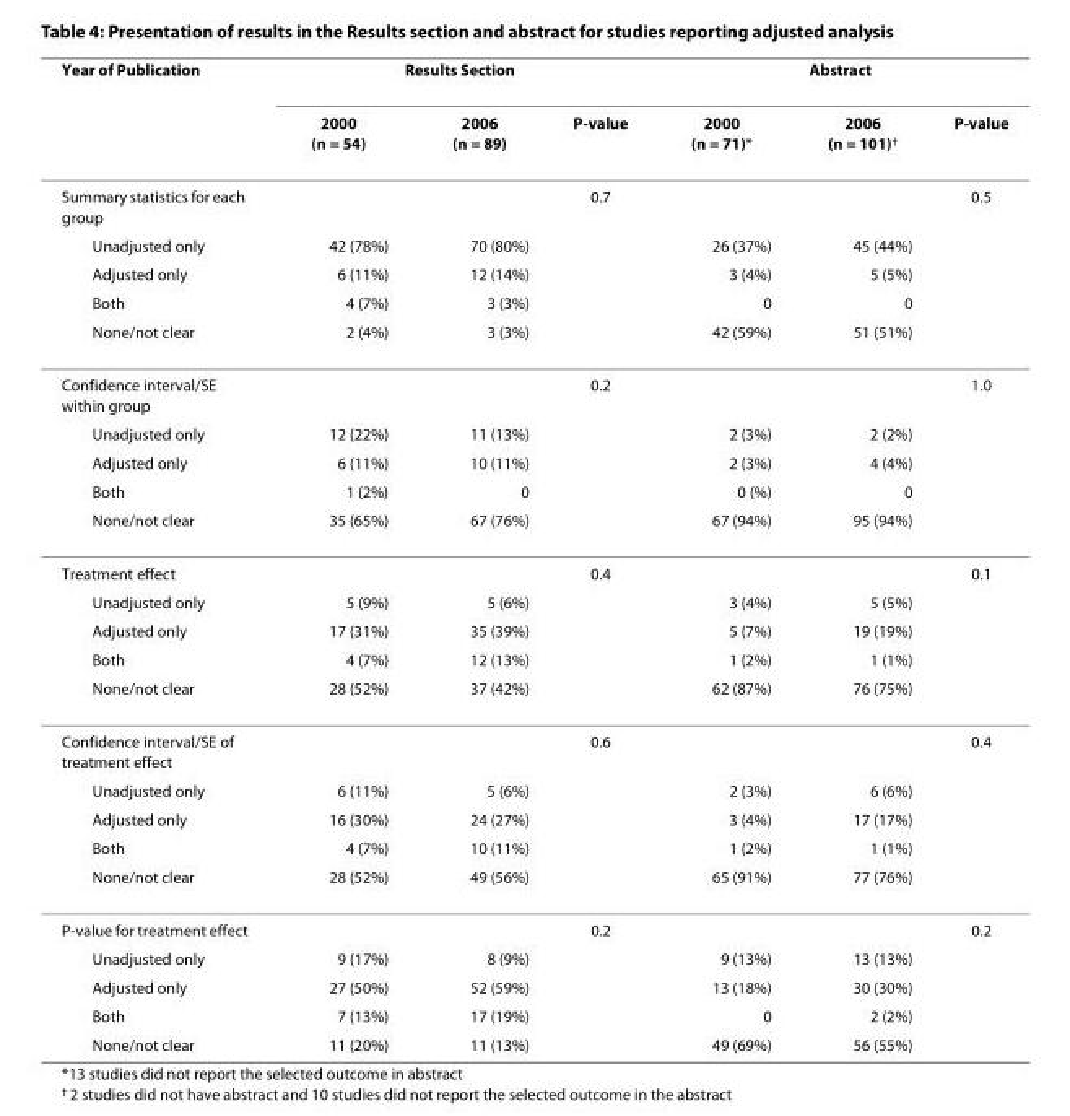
<table><thead><tr><td rowspan="2">Year of Publication</td><td colspan="3">Results Section</td><td colspan="3">Abstract</td></tr><tr><td>2000 (n = 54)</td><td>2006 (n = 89)</td><td>P-value</td><td>2000 (n = 71)*</td><td>2006 (n = 101)<sup>†</sup></td><td>P-value</td></tr></thead><tbody><tr><td>Summary statistics for each group</td><td></td><td></td><td>0.7</td><td></td><td></td><td>0.5</td></tr><tr><td>Unadjusted only</td><td>42 (78%)</td><td>70 (80%)</td><td></td><td>26 (37%)</td><td>45 (44%)</td><td></td></tr><tr><td>Adjusted only</td><td>6 (11%)</td><td>12 (14%)</td><td></td><td>3 (4%)</td><td>5 (5%)</td><td></td></tr><tr><td>Both</td><td>4 (7%)</td><td>3 (3%)</td><td></td><td>0</td><td>0</td><td></td></tr><tr><td>None/not clear</td><td>2 (4%)</td><td>3 (3%)</td><td></td><td>42 (59%)</td><td>51 (51%)</td><td></td></tr><tr><td>Confidence interval/SE within group</td><td></td><td></td><td>0.2</td><td></td><td></td><td>1.0</td></tr><tr><td>Unadjusted only</td><td>12 (22%)</td><td>11 (13%)</td><td></td><td>2 (3%)</td><td>2 (2%)</td><td></td></tr><tr><td>Adjusted only</td><td>6 (11%)</td><td>10 (11%)</td><td></td><td>2 (3%)</td><td>4 (4%)</td><td></td></tr><tr><td>Both</td><td>1 (2%)</td><td>0</td><td></td><td>0 (%)</td><td>0</td><td></td></tr><tr><td>None/not clear</td><td>35 (65%)</td><td>67 (76%)</td><td></td><td>67 (94%)</td><td>95 (94%)</td><td></td></tr><tr><td>Treatment effect</td><td></td><td></td><td>0.4</td><td></td><td></td><td>0.1</td></tr><tr><td>Unadjusted only</td><td>5 (9%)</td><td>5 (6%)</td><td></td><td>3 (4%)</td><td>5 (5%)</td><td></td></tr><tr><td>Adjusted only</td><td>17 (31%)</td><td>35 (39%)</td><td></td><td>5 (7%)</td><td>19 (19%)</td><td></td></tr><tr><td>Both</td><td>4 (7%)</td><td>12 (13%)</td><td></td><td>1 (2%)</td><td>1 (1%)</td><td></td></tr><tr><td>None/not clear</td><td>28 (52%)</td><td>37 (42%)</td><td></td><td>62 (87%)</td><td>76 (75%)</td><td></td></tr><tr><td>Confidence interval/SE of treatment effect</td><td></td><td></td><td>0.6</td><td></td><td></td><td>0.4</td></tr><tr><td>Unadjusted only</td><td>6 (11%)</td><td>5 (6%)</td><td></td><td>2 (3%)</td><td>6 (6%)</td><td></td></tr><tr><td>Adjusted only</td><td>16 (30%)</td><td>24 (27%)</td><td></td><td>3 (4%)</td><td>17 (17%)</td><td></td></tr><tr><td>Both</td><td>4 (7%)</td><td>10 (11%)</td><td></td><td>1 (2%)</td><td>1 (1%)</td><td></td></tr><tr><td>None/not clear</td><td>28 (52%)</td><td>49 (56%)</td><td></td><td>65 (91%)</td><td>77 (76%)</td><td></td></tr><tr><td>P-value for treatment effect</td><td></td><td></td><td>0.2</td><td></td><td></td><td>0.2</td></tr><tr><td>Unadjusted only</td><td>9 (17%)</td><td>8 (9%)</td><td></td><td>9 (13%)</td><td>13 (13%)</td><td></td></tr><tr><td>Adjusted only</td><td>27 (50%)</td><td>52 (59%)</td><td></td><td>13 (18%)</td><td>30 (30%)</td><td></td></tr><tr><td>Both</td><td>7 (13%)</td><td>17 (19%)</td><td></td><td>0</td><td>2 (2%)</td><td></td></tr><tr><td>None/not clear</td><td>11 (20%)</td><td>11 (13%)</td><td></td><td>49 (69%)</td><td>56 (55%)</td><td></td></tr></tbody></table>